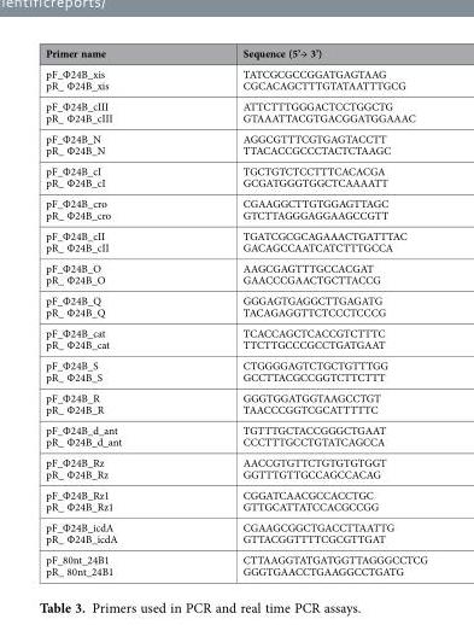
<table><thead><tr><td>Primer name</td><td>Sequence (5’→ 3’)</td></tr></thead><tbody><tr><td>pF_Φ24B_xis pR_ Φ24B_xis</td><td>TATCGCGCCGGATGAGTAAG CGCACAGCTTTGTATAATTTGCG</td></tr><tr><td>pF_Φ24B_cIII pR_ Φ24B_cIII</td><td>ATTCTTTGGGACTCCTGGCTG GTAAATTACGTGACGGATGGAAAC</td></tr><tr><td>pF_Φ24B_N pR_ Φ24B_N</td><td>AGGCGTTTCGTGAGTACCTT TTACACCGCCCTACTCTAAGC</td></tr><tr><td>pF_Φ24B_cI pR_ Φ24B_cI</td><td>TGCTGTCTCCTTTCACACGA GCGATGGGTGGCTCAAAATT</td></tr><tr><td>pF_Φ24B_cro pR_ Φ24B_cro</td><td>CGAAGGCTTGTGGAGTTAGC GTCTTAGGGAGGAAGCCGTT</td></tr><tr><td>pF_Φ24B_cII pR_ Φ24B_cII</td><td>TGATCGCGCAGAAACTGATTTAC GACAGCCAATCATCTTTGCCA</td></tr><tr><td>pF_Φ24B_O pR_ Φ24B_O</td><td>AAGCGAGTTTGCCACGAT GAACCCGAACTGCTTACCG</td></tr><tr><td>pF_Φ24B_Q pR_ Φ24B_Q</td><td>GGGAGTGAGGCTTGAGATG TACAGAGGTTCTCCCTCCCG</td></tr><tr><td>pF_Φ24B_cat pR_ Φ24B_cat</td><td>TCACCAGCTCACCGTCTTTC TTCTTGCCCGCCTGATGAAT</td></tr><tr><td>pF_Φ24B_S pR_ Φ24B_S</td><td>CTGGGGAGTCTGCTGTTTGG GCCTTACGCCGGTCTTCTTT</td></tr><tr><td>pF_Φ24B_R pR_ Φ24B_R</td><td>GGGTGGATGGTAAGCCTGT TAACCCGGTCGCATTTTTC</td></tr><tr><td>pF_Φ24B_d_ant pR_ Φ24B_d_ant</td><td>TGTTTGCTACCGGGCTGAAT CCCTTTGCCTGTATCAGCCA</td></tr><tr><td>pF_Φ24B_Rz pR_ Φ24B_Rz</td><td>AACCGTGTTCTGTGTGTGGT GGTTTGTTGCCAGCCACAG</td></tr><tr><td>pF_Φ24B_Rz1 pR_ Φ24B_Rz1</td><td>CGGATCAACGCCACCTGC GTTGCATTATCCACGCCGG</td></tr><tr><td>pF_Φ24B_icdA pR_ Φ24B_icdA</td><td>CGAAGCGGCTGACCTTAATTG GTTACGGTTTTCGCGTTGAT</td></tr><tr><td>pF_80nt_24B1 pR_ 80nt_24B1</td><td>CTTAAGGTATGATGGTTAGGGCCTCG GGGTGAACCTGAAGGCCTGATG</td></tr></tbody></table>